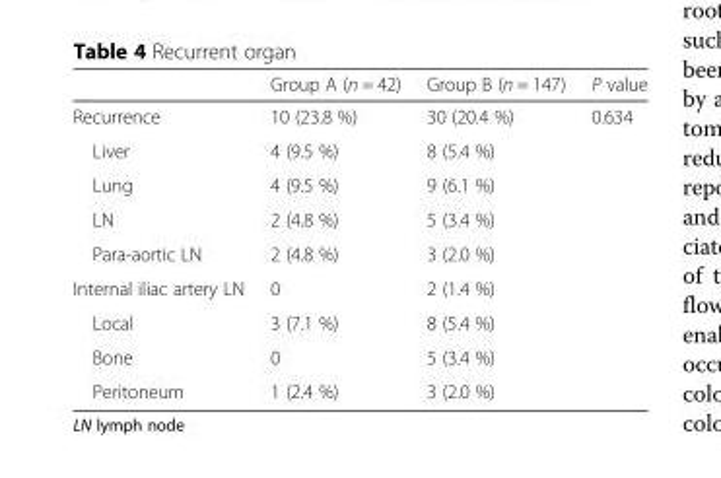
<table><thead><tr><td></td><td>Group A (n = 42)</td><td>Group B (n = 147)</td><td>P value</td></tr></thead><tbody><tr><td>Recurrence</td><td>10 (23.8 %)</td><td>30 (20.4 %)</td><td>0.634</td></tr><tr><td>Liver</td><td>4 (9.5 %)</td><td>8 (5.4 %)</td><td></td></tr><tr><td>Lung</td><td>4 (9.5 %)</td><td>9 (6.1 %)</td><td></td></tr><tr><td>LN</td><td>2 (4.8 %)</td><td>5 (3.4 %)</td><td></td></tr><tr><td>Para-aortic LN</td><td>2 (4.8 %)</td><td>3 (2.0 %)</td><td></td></tr><tr><td>Internal iliac artery LN</td><td>0</td><td>2 (1.4 %)</td><td></td></tr><tr><td>Local</td><td>3 (7.1 %)</td><td>8 (5.4 %)</td><td></td></tr><tr><td>Bone</td><td>0</td><td>5 (3.4 %)</td><td></td></tr><tr><td>Peritoneum</td><td>1 (2.4 %)</td><td>3 (2.0 %)</td><td></td></tr></tbody></table>